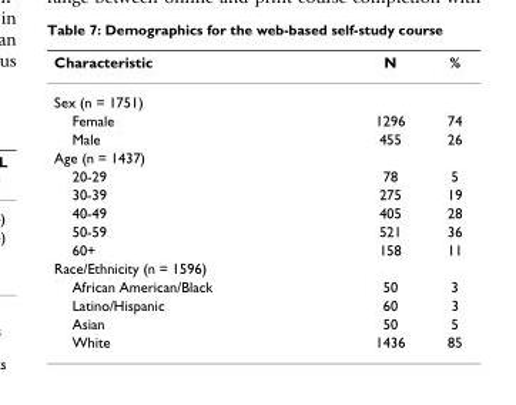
<table><thead><tr><td>Characteristic</td><td>N</td><td>%</td></tr></thead><tbody><tr><td colspan="3">Sex (n = 1751)</td></tr><tr><td>Female</td><td>1296</td><td>74</td></tr><tr><td>Male</td><td>455</td><td>26</td></tr><tr><td colspan="3">Age (n = 1437)</td></tr><tr><td>20-29</td><td>78</td><td>5</td></tr><tr><td>30-39</td><td>275</td><td>19</td></tr><tr><td>40-49</td><td>405</td><td>28</td></tr><tr><td>50-59</td><td>521</td><td>36</td></tr><tr><td>60+</td><td>158</td><td>11</td></tr><tr><td colspan="3">Race/Ethnicity (n = 1596)</td></tr><tr><td>African American/Black</td><td>50</td><td>3</td></tr><tr><td>Latino/Hispanic</td><td>60</td><td>3</td></tr><tr><td>Asian</td><td>50</td><td>5</td></tr><tr><td>White</td><td>1436</td><td>85</td></tr></tbody></table>